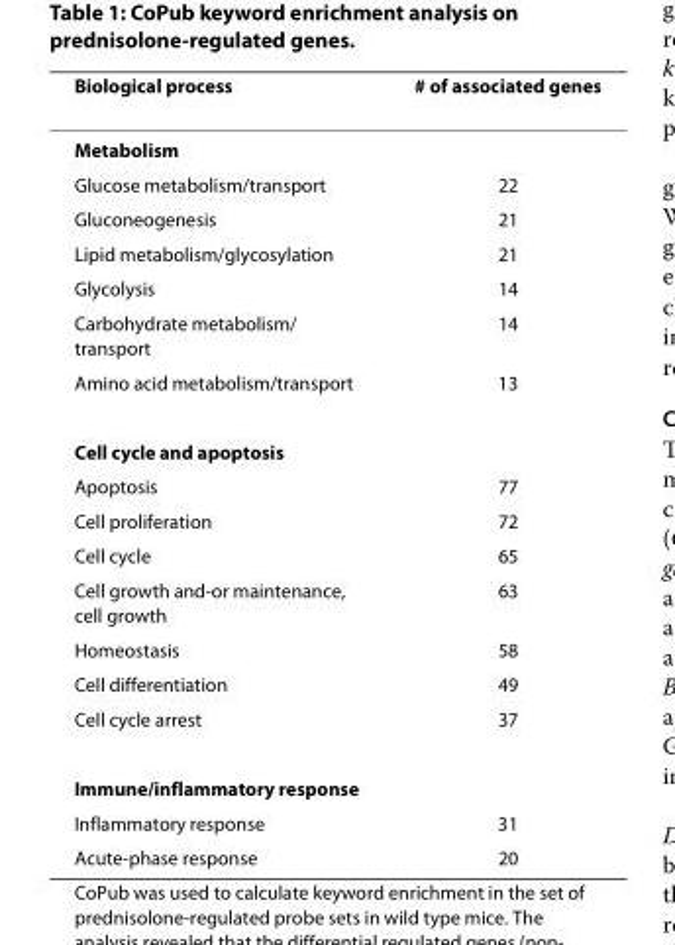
<table><thead><tr><td>Biological process</td><td># of associated genes</td></tr></thead><tbody><tr><td colspan="2">Metabolism</td></tr><tr><td>Glucose metabolism/transport</td><td>22</td></tr><tr><td>Gluconeogenesis</td><td>21</td></tr><tr><td>Lipid metabolism/glycosylation</td><td>21</td></tr><tr><td>Glycolysis</td><td>14</td></tr><tr><td>Carbohydrate metabolism/ transport</td><td>14</td></tr><tr><td>Amino acid metabolism/transport</td><td>13</td></tr><tr><td colspan="2">Cell cycle and apoptosis</td></tr><tr><td>Apoptosis</td><td>77</td></tr><tr><td>Cell proliferation</td><td>72</td></tr><tr><td>Cell cycle</td><td>65</td></tr><tr><td>Cell growth and-or maintenance, cell growth</td><td>63</td></tr><tr><td>Homeostasis</td><td>58</td></tr><tr><td>Cell differentiation</td><td>49</td></tr><tr><td>Cell cycle arrest</td><td>37</td></tr><tr><td colspan="2">Immune/inflammatory response</td></tr><tr><td>Inflammatory response</td><td>31</td></tr><tr><td>Acute-phase response</td><td>20</td></tr></tbody></table>